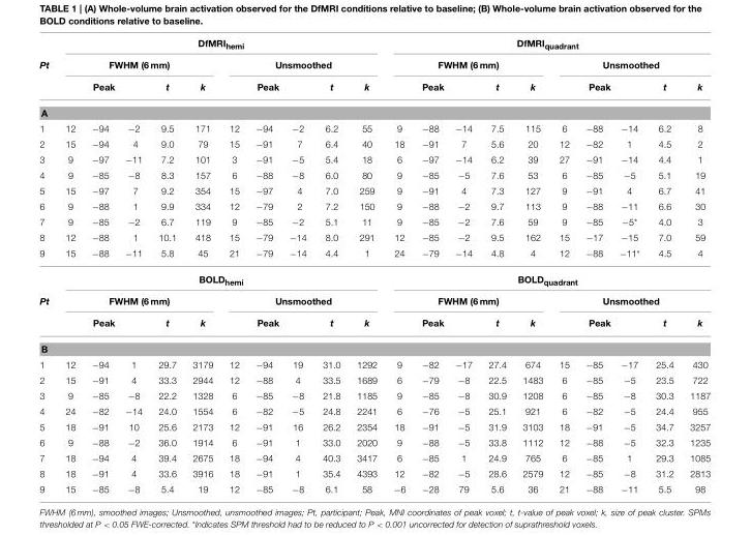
<table><thead><tr><td rowspan="3">Pt</td><td colspan="10">DfMRI<sub>hemi</sub></td><td colspan="10">DfMRI<sub>quadrant</sub></td></tr><tr><td colspan="5">FWHM (6 mm)</td><td colspan="5">Unsmoothed</td><td colspan="5">FWHM (6 mm)</td><td colspan="5">Unsmoothed</td></tr><tr><td colspan="3">Peak</td><td>t</td><td>k</td><td colspan="3">Peak</td><td>t</td><td>k</td><td colspan="3">Peak</td><td>t</td><td>k</td><td colspan="3">Peak</td><td>t</td><td>k</td></tr><tr><td colspan="10">A</td><td colspan="11"></td></tr><tr><td>1</td><td>12</td><td>−94</td><td>−2</td><td>9.5</td><td>171</td><td>12</td><td>−94</td><td>−2</td><td>6.2</td><td>55</td><td>9</td><td>−88</td><td>−14</td><td>7.5</td><td>115</td><td>6</td><td>−88</td><td>−14</td><td>6.2</td><td>8</td></tr></thead><tbody><tr><td>2</td><td>15</td><td>−94</td><td>4</td><td>9.0</td><td>79</td><td>15</td><td>−91</td><td>7</td><td>6.4</td><td>40</td><td>18</td><td>−91</td><td>7</td><td>5.6</td><td>20</td><td>12</td><td>−82</td><td>1</td><td>4.5</td><td>2</td></tr><tr><td>3</td><td>9</td><td>−97</td><td>−11</td><td>7.2</td><td>101</td><td>3</td><td>−91</td><td>−5</td><td>5.4</td><td>18</td><td>6</td><td>−97</td><td>−14</td><td>6.2</td><td>39</td><td>27</td><td>−91</td><td>−14</td><td>4.4</td><td>1</td></tr><tr><td>4</td><td>9</td><td>−85</td><td>−8</td><td>8.3</td><td>157</td><td>6</td><td>−88</td><td>−8</td><td>6.0</td><td>80</td><td>9</td><td>−85</td><td>−5</td><td>7.6</td><td>53</td><td>6</td><td>−85</td><td>−5</td><td>5.1</td><td>19</td></tr><tr><td>5</td><td>15</td><td>−97</td><td>7</td><td>9.2</td><td>354</td><td>15</td><td>−97</td><td>4</td><td>7.0</td><td>259</td><td>9</td><td>−91</td><td>4</td><td>7.3</td><td>127</td><td>9</td><td>−91</td><td>4</td><td>6.7</td><td>41</td></tr><tr><td>6</td><td>9</td><td>−88</td><td>1</td><td>9.9</td><td>334</td><td>12</td><td>−79</td><td>2</td><td>7.2</td><td>150</td><td>9</td><td>−88</td><td>−2</td><td>9.7</td><td>113</td><td>9</td><td>−88</td><td>−11</td><td>6.6</td><td>30</td></tr><tr><td>7</td><td>9</td><td>−85</td><td>−2</td><td>6.7</td><td>119</td><td>9</td><td>−85</td><td>−2</td><td>5.1</td><td>11</td><td>9</td><td>−85</td><td>−2</td><td>7.6</td><td>59</td><td>9</td><td>−85</td><td>−5*</td><td>4.0</td><td>3</td></tr><tr><td>8</td><td>12</td><td>−88</td><td>1</td><td>10.1</td><td>418</td><td>15</td><td>−79</td><td>−14</td><td>8.0</td><td>291</td><td>12</td><td>−85</td><td>−2</td><td>9.5</td><td>162</td><td>15</td><td>−17</td><td>−15</td><td>7.0</td><td>59</td></tr><tr><td rowspan="2">9</td><td>15</td><td>−88</td><td>−11</td><td>5.8</td><td>45</td><td>21</td><td>−79</td><td>−14</td><td>4.4</td><td>1</td><td>24</td><td>−79</td><td>−14</td><td>4.8</td><td>4</td><td>12</td><td>−88</td><td>−11*</td><td>4.5</td><td>4</td></tr><tr><td colspan="10">BOLD<sub>hemi</sub></td><td colspan="10">BOLD<sub>quadrant</sub></td></tr><tr><td rowspan="2">Pt</td><td colspan="5">FWHM (6 mm)</td><td colspan="5">Unsmoothed</td><td colspan="5">FWHM (6 mm)</td><td colspan="5">Unsmoothed</td></tr><tr><td colspan="3">Peak</td><td>t</td><td>k</td><td colspan="3">Peak</td><td>t</td><td>k</td><td colspan="3">Peak</td><td>t</td><td>k</td><td colspan="3">Peak</td><td>t</td><td>k</td></tr><tr><td colspan="21">B</td></tr><tr><td>1</td><td>12</td><td>−94</td><td>1</td><td>29.7</td><td>3179</td><td>12</td><td>−94</td><td>19</td><td>31.0</td><td>1292</td><td>9</td><td>−82</td><td>−17</td><td>27.4</td><td>674</td><td>15</td><td>−85</td><td>−17</td><td>25.4</td><td>430</td></tr><tr><td>2</td><td>15</td><td>−91</td><td>4</td><td>33.3</td><td>2944</td><td>12</td><td>−88</td><td>4</td><td>33.5</td><td>1689</td><td>6</td><td>−79</td><td>−8</td><td>22.5</td><td>1483</td><td>6</td><td>−85</td><td>−5</td><td>23.5</td><td>722</td></tr><tr><td>3</td><td>9</td><td>−85</td><td>−8</td><td>22.2</td><td>1328</td><td>6</td><td>−85</td><td>−8</td><td>21.8</td><td>1185</td><td>9</td><td>−85</td><td>−8</td><td>30.9</td><td>1208</td><td>6</td><td>−85</td><td>−8</td><td>30.3</td><td>1187</td></tr><tr><td>4</td><td>24</td><td>−82</td><td>−14</td><td>24.0</td><td>1554</td><td>6</td><td>−82</td><td>−5</td><td>24.8</td><td>2241</td><td>6</td><td>−76</td><td>−5</td><td>25.1</td><td>921</td><td>6</td><td>−82</td><td>−5</td><td>24.4</td><td>955</td></tr><tr><td>5</td><td>18</td><td>−91</td><td>10</td><td>25.6</td><td>2173</td><td>12</td><td>−91</td><td>16</td><td>26.2</td><td>2354</td><td>18</td><td>−91</td><td>−5</td><td>31.9</td><td>3103</td><td>18</td><td>−91</td><td>−5</td><td>34.7</td><td>3257</td></tr><tr><td>6</td><td>9</td><td>−88</td><td>−2</td><td>36.0</td><td>1914</td><td>6</td><td>−91</td><td>1</td><td>33.0</td><td>2020</td><td>9</td><td>−88</td><td>−5</td><td>33.8</td><td>1112</td><td>12</td><td>−88</td><td>−5</td><td>32.3</td><td>1235</td></tr><tr><td>7</td><td>18</td><td>−94</td><td>4</td><td>39.4</td><td>2675</td><td>18</td><td>−94</td><td>4</td><td>40.3</td><td>3417</td><td>6</td><td>−85</td><td>1</td><td>24.9</td><td>765</td><td>6</td><td>−85</td><td>1</td><td>29.3</td><td>1085</td></tr><tr><td>8</td><td>18</td><td>−91</td><td>4</td><td>33.6</td><td>3916</td><td>18</td><td>−91</td><td>1</td><td>35.4</td><td>4393</td><td>12</td><td>−82</td><td>−5</td><td>28.6</td><td>2579</td><td>12</td><td>−85</td><td>−8</td><td>31.2</td><td>2813</td></tr><tr><td>9</td><td>15</td><td>−85</td><td>−8</td><td>5.4</td><td>19</td><td>12</td><td>−85</td><td>−8</td><td>6.1</td><td>58</td><td>−6</td><td>−28</td><td>79</td><td>5.6</td><td>36</td><td>21</td><td>−88</td><td>−11</td><td>5.5</td><td>98</td></tr></tbody></table>